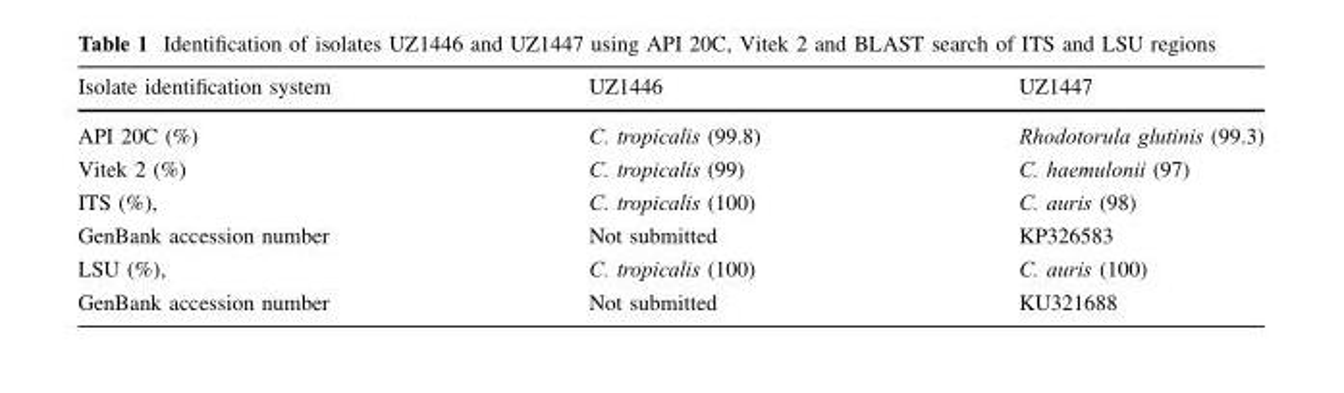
<table><thead><tr><td>Isolate identification system</td><td>UZ1446</td><td>UZ1447</td></tr></thead><tbody><tr><td>API 20C (%)</td><td>C. tropicalis (99.8)</td><td>Rhodotorula glutinis (99.3)</td></tr><tr><td>Vitek 2 (%)</td><td>C. tropicalis (99)</td><td>C. haemulonii (97)</td></tr><tr><td>ITS (%), GenBank accession number</td><td>C. tropicalis (100) Not submitted</td><td>C. auris (98) KP326583</td></tr><tr><td>LSU (%), GenBank accession number</td><td>C. tropicalis (100) Not submitted</td><td>C. auris (100) KU321688</td></tr></tbody></table>